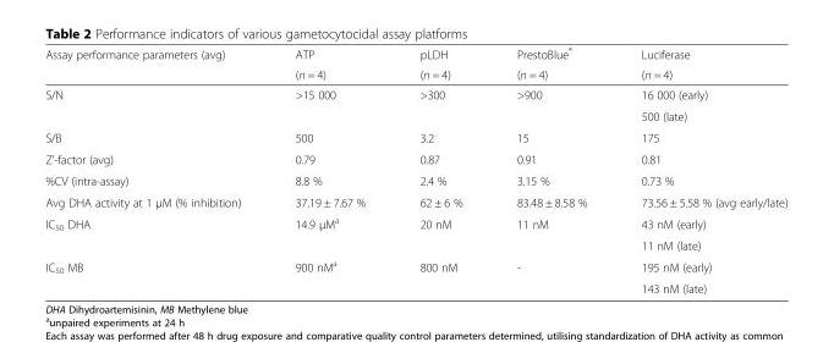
<table><thead><tr><td rowspan="2">Assay performance parameters (avg)</td><td rowspan="2">ATP (n = 4)</td><td rowspan="2">pLDH (n = 4)</td><td rowspan="2">PrestoBlue<sup>®</sup> (n = 4)</td><td rowspan="2">Luciferase (n = 4)</td></tr><tr></tr></thead><tbody><tr><td rowspan="2">S/N</td><td rowspan="2">&gt;15 000</td><td rowspan="2">&gt;300</td><td rowspan="2">&gt;900</td><td>16 000 (early)</td></tr><tr><td>500 (late)</td></tr><tr><td>S/B</td><td>500</td><td>3.2</td><td>15</td><td>175</td></tr><tr><td>Z’-factor (avg)</td><td>0.79</td><td>0.87</td><td>0.91</td><td>0.81</td></tr><tr><td>%CV (intra-assay)</td><td>8.8 %</td><td>2.4 %</td><td>3.15 %</td><td>0.73 %</td></tr><tr><td>Avg DHA activity at 1 μM (% inhibition)</td><td>37.19 ± 7.67 %</td><td>62 ± 6 %</td><td>83.48 ± 8.58 %</td><td>73.56 ± 5.58 % (avg early/late)</td></tr><tr><td rowspan="2">IC<sub>50</sub> DHA</td><td rowspan="2">14.9 μM<sup>a</sup></td><td rowspan="2">20 nM</td><td rowspan="2">11 nM</td><td>43 nM (early)</td></tr><tr><td>11 nM (late)</td></tr><tr><td rowspan="2">IC<sub>50</sub> MB</td><td rowspan="2">900 nM<sup>a</sup></td><td rowspan="2">800 nM</td><td rowspan="2">-</td><td>195 nM (early)</td></tr><tr><td>143 nM (late)</td></tr></tbody></table>